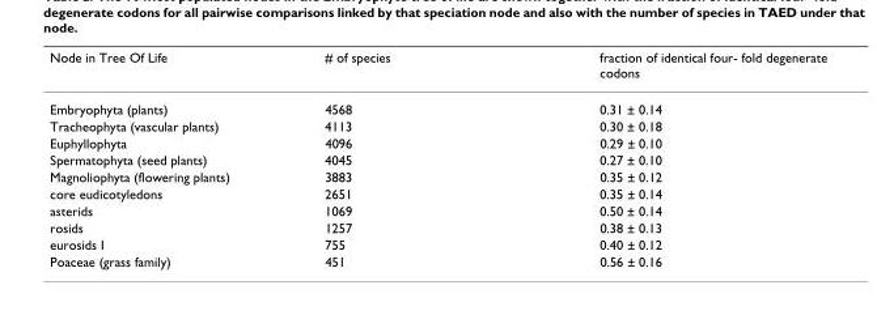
<table><thead><tr><td>Node in Tree Of Life</td><td># of species</td><td>fraction of identical four- fold degenerate codons</td></tr></thead><tbody><tr><td>Embryophyta (plants)</td><td>4568</td><td>0.31 ± 0.14</td></tr><tr><td>Tracheophyta (vascular plants)</td><td>4113</td><td>0.30 ± 0.18</td></tr><tr><td>Euphyllophyta</td><td>4096</td><td>0.29 ± 0.10</td></tr><tr><td>Spermatophyta (seed plants)</td><td>4045</td><td>0.27 ± 0.10</td></tr><tr><td>Magnoliophyta (flowering plants)</td><td>3883</td><td>0.35 ± 0.12</td></tr><tr><td>core eudicotyledons</td><td>2651</td><td>0.35 ± 0.14</td></tr><tr><td>asterids</td><td>1069</td><td>0.50 ± 0.14</td></tr><tr><td>rosids</td><td>1257</td><td>0.38 ± 0.13</td></tr><tr><td>eurosids I</td><td>755</td><td>0.40 ± 0.12</td></tr><tr><td>Poaceae (grass family)</td><td>451</td><td>0.56 ± 0.16</td></tr></tbody></table>